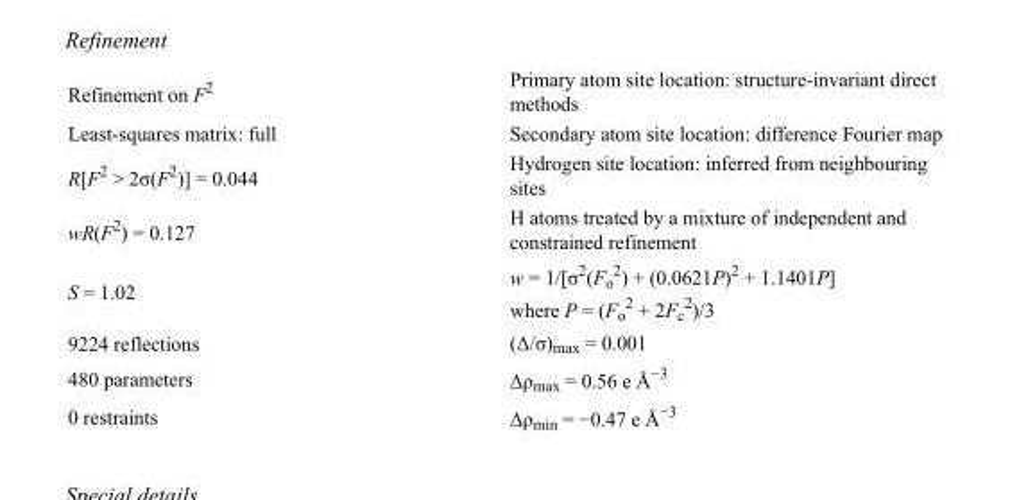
<table><tbody><tr><td>Refinement on F<sup>2</sup></td><td>Primary atom site location: structure-invariant direct methods</td></tr><tr><td>Least-squares matrix: full</td><td>Secondary atom site location: difference Fourier map</td></tr><tr><td>R[F<sup>2</sup> &gt; 2σ(F<sup>2</sup>)] = 0.044</td><td>Hydrogen site location: inferred from neighbouring sites</td></tr><tr><td>wR(F<sup>2</sup>) = 0.127</td><td>H atoms treated by a mixture of independent and constrained refinement</td></tr><tr><td>S = 1.02</td><td>w = 1/[σ<sup>2</sup>(F<sub>o</sub> <sup>2</sup>) + (0.0621P)<sup>2</sup> + 1.1401P] where P = (F<sub>o</sub> <sup>2</sup> + 2F<sub>c</sub> <sup>2</sup>)/3</td></tr><tr><td>9224 reflections</td><td>(Δ/σ)<sub>max</sub> = 0.001</td></tr><tr><td>480 parameters</td><td>Δρ<sub>max</sub> = 0.56 e Å<sup>−3</sup></td></tr><tr><td>0 restraints</td><td>Δρ<sub>min</sub> = −0.47 e Å<sup>−3</sup></td></tr></tbody></table>